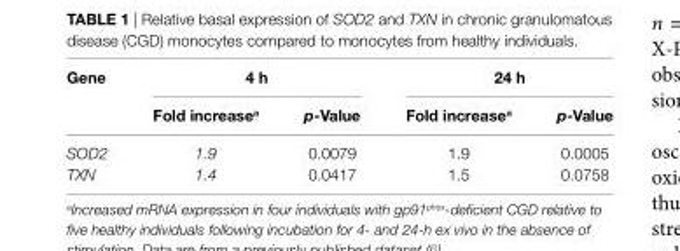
<table><thead><tr><td rowspan="2">gene</td><td colspan="2">4 h</td><td colspan="2">24 h</td></tr><tr><td>Fold increase<sup>a</sup></td><td>p-Value</td><td>Fold increase<sup>a</sup></td><td>p-Value</td></tr></thead><tbody><tr><td>SOD2</td><td>1.9</td><td>0.0079</td><td>1.9</td><td>0.0005</td></tr><tr><td>TXN</td><td>1.4</td><td>0.0417</td><td>1.5</td><td>0.0758</td></tr></tbody></table>